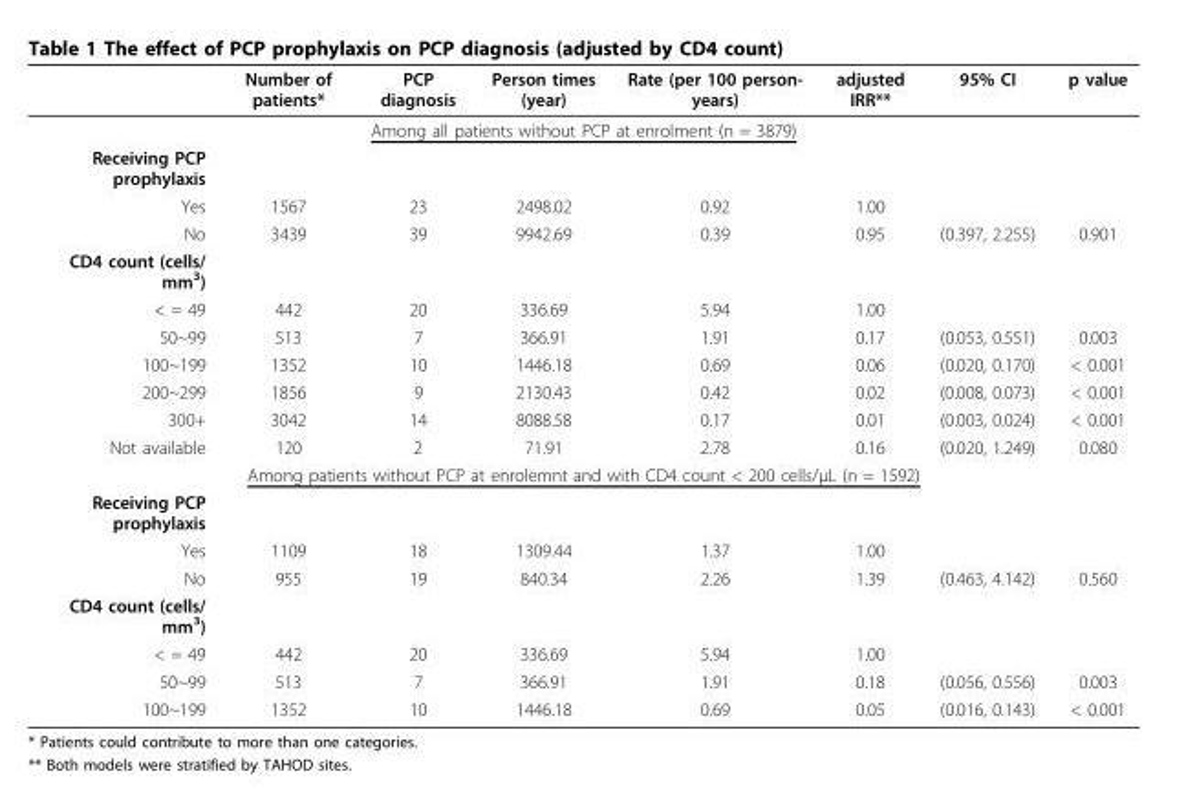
<table><thead><tr><td></td><td>Number of patients*</td><td>PCP diagnosis</td><td>Person times (year)</td><td>Rate (per 100 person- years)</td><td>adjusted IRR**</td><td>95% CI</td><td>p value</td></tr></thead><tbody><tr><td colspan="8">Among all patients without PCP at enrolment (n = 3879)</td></tr><tr><td colspan="8">Receiving PCP prophylaxis</td></tr><tr><td>Yes</td><td>1567</td><td>23</td><td>2498.02</td><td>0.92</td><td>1.00</td><td></td><td></td></tr><tr><td>No</td><td>3439</td><td>39</td><td>9942.69</td><td>0.39</td><td>0.95</td><td>(0.397, 2.255)</td><td>0.901</td></tr><tr><td colspan="8">CD4 count (cells/ mm<sup>3</sup>)</td></tr><tr><td>&lt; = 49</td><td>442</td><td>20</td><td>336.69</td><td>5.94</td><td>1.00</td><td></td><td></td></tr><tr><td>50~99</td><td>513</td><td>7</td><td>366.91</td><td>1.91</td><td>0.17</td><td>(0.053, 0.551)</td><td>0.003</td></tr><tr><td>100~199</td><td>1352</td><td>10</td><td>1446.18</td><td>0.69</td><td>0.06</td><td>(0.020, 0.170)</td><td>&lt; 0.001</td></tr><tr><td>200~299</td><td>1856</td><td>9</td><td>2130.43</td><td>0.42</td><td>0.02</td><td>(0.008, 0.073)</td><td>&lt; 0.001</td></tr><tr><td>300+</td><td>3042</td><td>14</td><td>8088.58</td><td>0.17</td><td>0.01</td><td>(0.003, 0.024)</td><td>&lt; 0.001</td></tr><tr><td>Not available</td><td>120</td><td>2</td><td>71.91</td><td>2.78</td><td>0.16</td><td>(0.020, 1.249)</td><td>0.080</td></tr><tr><td colspan="8">Among patients without PCP at enrolemnt and with CD4 count &lt; 200 cells/μL (n = 1592)</td></tr><tr><td colspan="8">Receiving PCP prophylaxis</td></tr><tr><td>Yes</td><td>1109</td><td>18</td><td>1309.44</td><td>1.37</td><td>1.00</td><td></td><td></td></tr><tr><td>No</td><td>955</td><td>19</td><td>840.34</td><td>2.26</td><td>1.39</td><td>(0.463, 4.142)</td><td>0.560</td></tr><tr><td colspan="8">CD4 count (cells/ mm<sup>3</sup>)</td></tr><tr><td>&lt; = 49</td><td>442</td><td>20</td><td>336.69</td><td>5.94</td><td>1.00</td><td></td><td></td></tr><tr><td>50~99</td><td>513</td><td>7</td><td>366.91</td><td>1.91</td><td>0.18</td><td>(0.056, 0.556)</td><td>0.003</td></tr><tr><td>100~199</td><td>1352</td><td>10</td><td>1446.18</td><td>0.69</td><td>0.05</td><td>(0.016, 0.143)</td><td>&lt; 0.001</td></tr></tbody></table>